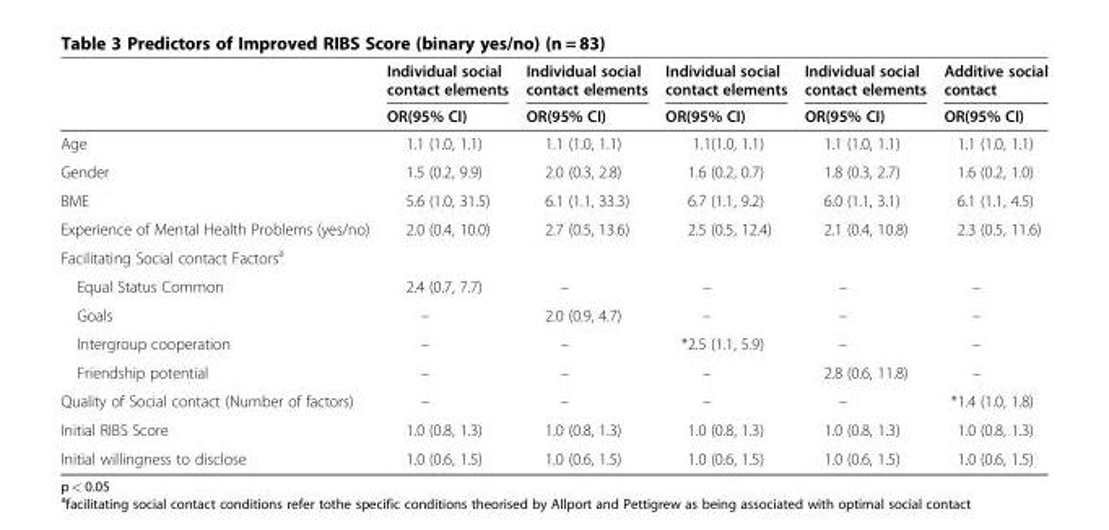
<table><thead><tr><td rowspan="2"></td><td rowspan="2">Individual social contact elements OR(95% CI)</td><td rowspan="2">Individual social contact elements OR(95% CI)</td><td rowspan="2">Individual social contact elements OR(95% CI)</td><td rowspan="2">Individual social contact elements OR(95% CI)</td><td rowspan="2">Additive social contact OR(95% CI)</td></tr><tr></tr></thead><tbody><tr><td>Age</td><td>1.1 (1.0, 1.1)</td><td>1.1 (1.0, 1.1)</td><td>1.1(1.0, 1.1)</td><td>1.1 (1.0, 1.1)</td><td>1.1 (1.0, 1.1)</td></tr><tr><td>Gender</td><td>1.5 (0.2, 9.9)</td><td>2.0 (0.3, 2.8)</td><td>1.6 (0.2, 0.7)</td><td>1.8 (0.3, 2.7)</td><td>1.6 (0.2, 1.0)</td></tr><tr><td>BME</td><td>5.6 (1.0, 31.5)</td><td>6.1 (1.1, 33.3)</td><td>6.7 (1.1, 9.2)</td><td>6.0 (1.1, 3.1)</td><td>6.1 (1.1, 4.5)</td></tr><tr><td>Experience of Mental Health Problems (yes/no)</td><td>2.0 (0.4, 10.0)</td><td>2.7 (0.5, 13.6)</td><td>2.5 (0.5, 12.4)</td><td>2.1 (0.4, 10.8)</td><td>2.3 (0.5, 11.6)</td></tr><tr><td colspan="6">Facilitating Social contact Factors<sup>a</sup></td></tr><tr><td>Equal Status Common</td><td>2.4 (0.7, 7.7)</td><td>–</td><td>–</td><td>–</td><td>–</td></tr><tr><td>Goals</td><td>–</td><td>2.0 (0.9, 4.7)</td><td>–</td><td>–</td><td>–</td></tr><tr><td>Intergroup cooperation</td><td>–</td><td>–</td><td>*2.5 (1.1, 5.9)</td><td>–</td><td>–</td></tr><tr><td>Friendship potential</td><td>–</td><td>–</td><td>–</td><td>2.8 (0.6, 11.8)</td><td>–</td></tr><tr><td>Quality of Social contact (Number of factors)</td><td>–</td><td>–</td><td>–</td><td>–</td><td>*1.4 (1.0, 1.8)</td></tr><tr><td>Initial RIBS Score</td><td>1.0 (0.8, 1.3)</td><td>1.0 (0.8, 1.3)</td><td>1.0 (0.8, 1.3)</td><td>1.0 (0.8, 1.3)</td><td>1.0 (0.8, 1.3)</td></tr><tr><td>Initial willingness to disclose</td><td>1.0 (0.6, 1.5)</td><td>1.0 (0.6, 1.5)</td><td>1.0 (0.6, 1.5)</td><td>1.0 (0.6, 1.5)</td><td>1.0 (0.6, 1.5)</td></tr></tbody></table>